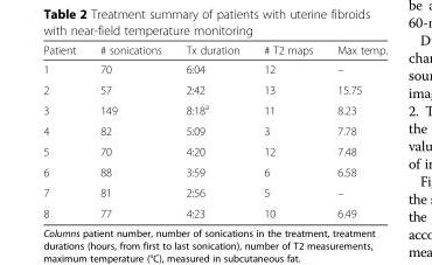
<table><thead><tr><td>Patient</td><td># sonications</td><td>Tx duration</td><td># T2 maps</td><td>Max temp.</td></tr></thead><tbody><tr><td>1</td><td>70</td><td>6:04</td><td>12</td><td>–</td></tr><tr><td>2</td><td>57</td><td>2:42</td><td>13</td><td>15.75</td></tr><tr><td>3</td><td>149</td><td>8:18<sup>a</sup></td><td>11</td><td>8.23</td></tr><tr><td>4</td><td>82</td><td>5:09</td><td>3</td><td>7.78</td></tr><tr><td>5</td><td>70</td><td>4:20</td><td>12</td><td>7.48</td></tr><tr><td>6</td><td>88</td><td>3:59</td><td>6</td><td>6.58</td></tr><tr><td>7</td><td>81</td><td>2:56</td><td>5</td><td>–</td></tr><tr><td>8</td><td>77</td><td>4:23</td><td>10</td><td>6.49</td></tr></tbody></table>